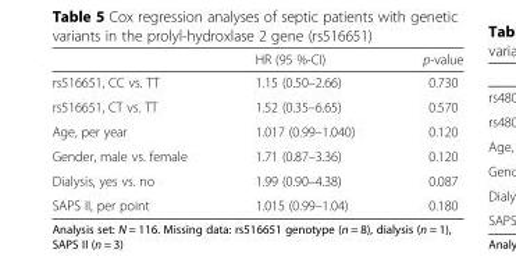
<table><thead><tr><td></td><td>HR (95 %-CI)</td><td>p-value</td></tr></thead><tbody><tr><td>rs516651, CC vs. TT</td><td>1.15 (0.50–2.66)</td><td>0.730</td></tr><tr><td>rs516651, CT vs. TT</td><td>1.52 (0.35–6.65)</td><td>0.570</td></tr><tr><td>Age, per year</td><td>1.017 (0.99–1.040)</td><td>0.120</td></tr><tr><td>Gender, male vs. female</td><td>1.71 (0.87–3.36)</td><td>0.120</td></tr><tr><td>Dialysis, yes vs. no</td><td>1.99 (0.90–4.38)</td><td>0.087</td></tr><tr><td>SAPS II, per point</td><td>1.015 (0.99–1.04)</td><td>0.180</td></tr></tbody></table>